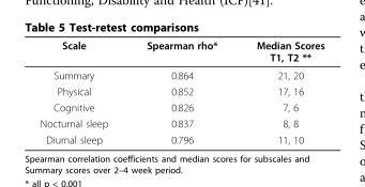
<table><thead><tr><td>Scale</td><td>Spearman rho*</td><td>Median Scores T1, T2 **</td></tr></thead><tbody><tr><td>Summary</td><td>0.864</td><td>21, 20</td></tr><tr><td>Physical</td><td>0.852</td><td>17, 16</td></tr><tr><td>Cognitive</td><td>0.826</td><td>7, 6</td></tr><tr><td>Nocturnal sleep</td><td>0.837</td><td>8, 8</td></tr><tr><td>Diurnal sleep</td><td>0.796</td><td>11, 10</td></tr></tbody></table>